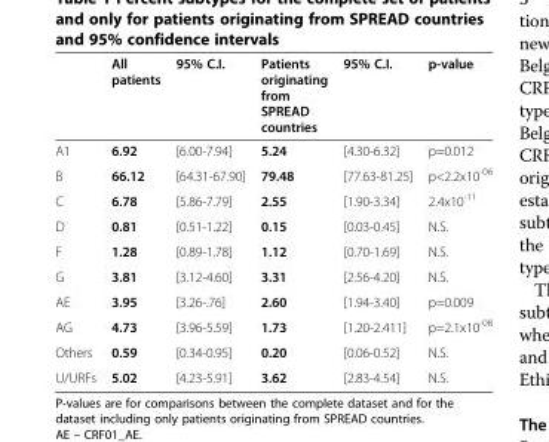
<table><thead><tr><td></td><td>All patients</td><td>95% C.I.</td><td>Patients originating from SPREAD countries</td><td>95% C.I.</td><td>p-value</td></tr></thead><tbody><tr><td>A1</td><td>6.92</td><td>[6.00-7.94]</td><td>5.24</td><td>[4.30-6.32]</td><td>p=0.012</td></tr><tr><td>B</td><td>66.12</td><td>[64.31-67.90]</td><td>79.48</td><td>[77.63-81.25]</td><td>p&lt;2.2x10<sup>-06</sup></td></tr><tr><td>C</td><td>6.78</td><td>[5.86-7.79]</td><td>2.55</td><td>[1.90-3.34]</td><td>2.4x10<sup>-11</sup></td></tr><tr><td>D</td><td>0.81</td><td>[0.51-1.22]</td><td>0.15</td><td>[0.03-0.45]</td><td>N.S.</td></tr><tr><td>F</td><td>1.28</td><td>[0.89-1.78]</td><td>1.12</td><td>[0.70-1.69]</td><td>N.S.</td></tr><tr><td>G</td><td>3.81</td><td>[3.12-4.60]</td><td>3.31</td><td>[2.56-4.20]</td><td>N.S.</td></tr><tr><td>AE</td><td>3.95</td><td>[3.26-.76]</td><td>2.60</td><td>[1.94-3.40]</td><td>p=0.009</td></tr><tr><td>AG</td><td>4.73</td><td>[3.96-5.59]</td><td>1.73</td><td>[1.20-2.411]</td><td>p=2.1x10<sup>-08</sup></td></tr><tr><td>Others</td><td>0.59</td><td>[0.34-0.95]</td><td>0.20</td><td>[0.06-0.52]</td><td>N.S.</td></tr><tr><td>U/URFs</td><td>5.02</td><td>[4.23-5.91]</td><td>3.62</td><td>[2.83-4.54]</td><td>N.S.</td></tr></tbody></table>